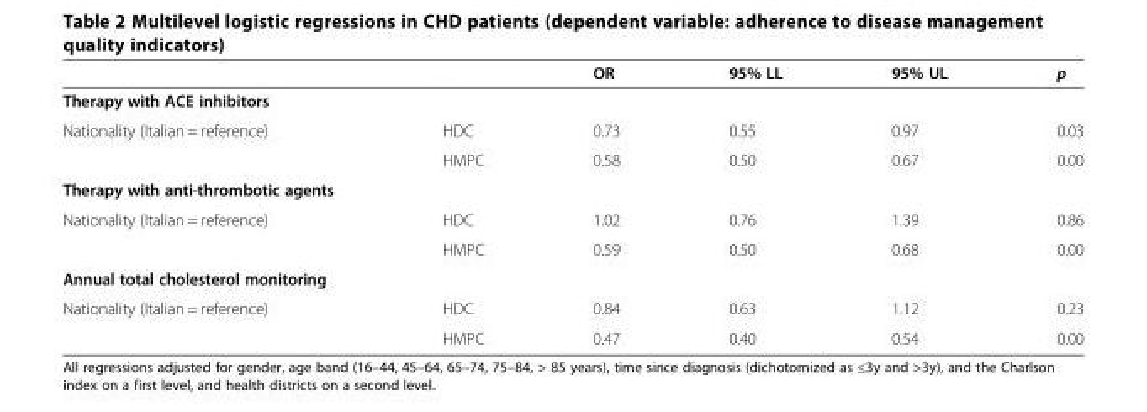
<table><thead><tr><td></td><td></td><td>OR</td><td>95% LL</td><td>95% UL</td><td>p</td></tr></thead><tbody><tr><td colspan="6">Therapy with ACE inhibitors</td></tr><tr><td rowspan="2">Nationality (Italian = reference)</td><td>HDC</td><td>0.73</td><td>0.55</td><td>0.97</td><td>0.03</td></tr><tr><td>HMPC</td><td>0.58</td><td>0.50</td><td>0.67</td><td>0.00</td></tr><tr><td colspan="6">Therapy with anti-thrombotic agents</td></tr><tr><td rowspan="2">Nationality (Italian = reference)</td><td>HDC</td><td>1.02</td><td>0.76</td><td>1.39</td><td>0.86</td></tr><tr><td>HMPC</td><td>0.59</td><td>0.50</td><td>0.68</td><td>0.00</td></tr><tr><td colspan="6">Annual total cholesterol monitoring</td></tr><tr><td rowspan="2">Nationality (Italian = reference)</td><td>HDC</td><td>0.84</td><td>0.63</td><td>1.12</td><td>0.23</td></tr><tr><td>HMPC</td><td>0.47</td><td>0.40</td><td>0.54</td><td>0.00</td></tr></tbody></table>